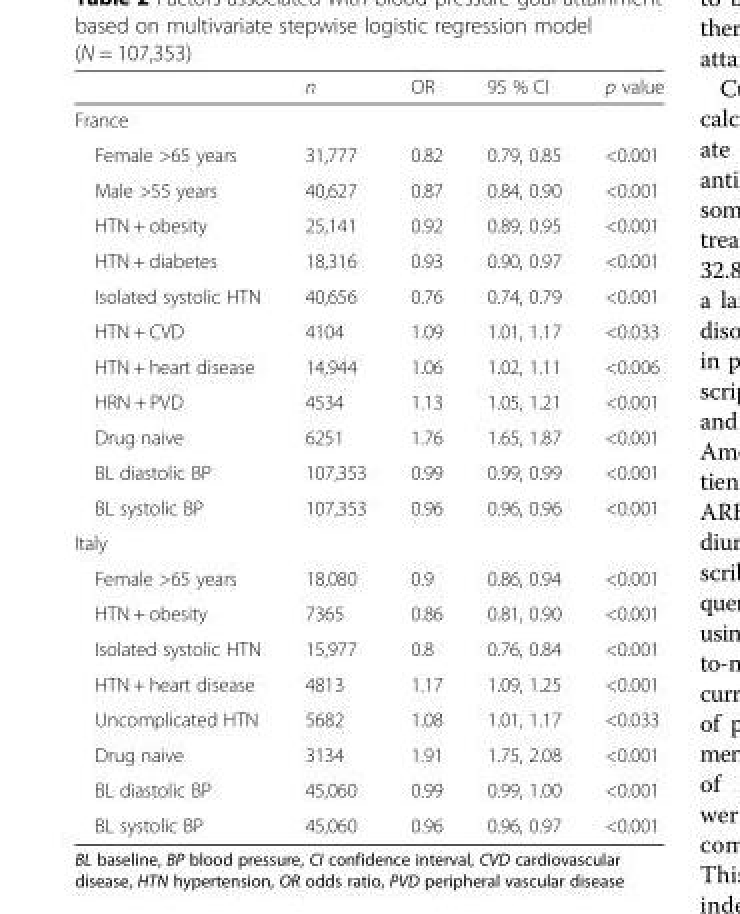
<table><thead><tr><td></td><td>n</td><td>OR</td><td>95 % CI</td><td>p value</td></tr></thead><tbody><tr><td colspan="5">France</td></tr><tr><td>Female &gt;65 years</td><td>31,777</td><td>0.82</td><td>0.79, 0.85</td><td>&lt;0.001</td></tr><tr><td>Male &gt;55 years</td><td>40,627</td><td>0.87</td><td>0.84, 0.90</td><td>&lt;0.001</td></tr><tr><td>HTN + obesity</td><td>25,141</td><td>0.92</td><td>0.89, 0.95</td><td>&lt;0.001</td></tr><tr><td>HTN + diabetes</td><td>18,316</td><td>0.93</td><td>0.90, 0.97</td><td>&lt;0.001</td></tr><tr><td>Isolated systolic HTN</td><td>40,656</td><td>0.76</td><td>0.74, 0.79</td><td>&lt;0.001</td></tr><tr><td>HTN + CVD</td><td>4104</td><td>1.09</td><td>1.01, 1.17</td><td>&lt;0.033</td></tr><tr><td>HTN + heart disease</td><td>14,944</td><td>1.06</td><td>1.02, 1.11</td><td>&lt;0.006</td></tr><tr><td>HRN + PVD</td><td>4534</td><td>1.13</td><td>1.05, 1.21</td><td>&lt;0.001</td></tr><tr><td>Drug naive</td><td>6251</td><td>1.76</td><td>1.65, 1.87</td><td>&lt;0.001</td></tr><tr><td>BL diastolic BP</td><td>107,353</td><td>0.99</td><td>0.99, 0.99</td><td>&lt;0.001</td></tr><tr><td>BL systolic BP</td><td>107,353</td><td>0.96</td><td>0.96, 0.96</td><td>&lt;0.001</td></tr><tr><td colspan="5">Italy</td></tr><tr><td>Female &gt;65 years</td><td>18,080</td><td>0.9</td><td>0.86, 0.94</td><td>&lt;0.001</td></tr><tr><td>HTN + obesity</td><td>7365</td><td>0.86</td><td>0.81, 0.90</td><td>&lt;0.001</td></tr><tr><td>Isolated systolic HTN</td><td>15,977</td><td>0.8</td><td>0.76, 0.84</td><td>&lt;0.001</td></tr><tr><td>HTN + heart disease</td><td>4813</td><td>1.17</td><td>1.09, 1.25</td><td>&lt;0.001</td></tr><tr><td>Uncomplicated HTN</td><td>5682</td><td>1.08</td><td>1.01, 1.17</td><td>&lt;0.033</td></tr><tr><td>Drug naive</td><td>3134</td><td>1.91</td><td>1.75, 2.08</td><td>&lt;0.001</td></tr><tr><td>BL diastolic BP</td><td>45,060</td><td>0.99</td><td>0.99, 1.00</td><td>&lt;0.001</td></tr><tr><td>BL systolic BP</td><td>45,060</td><td>0.96</td><td>0.96, 0.97</td><td>&lt;0.001</td></tr></tbody></table>